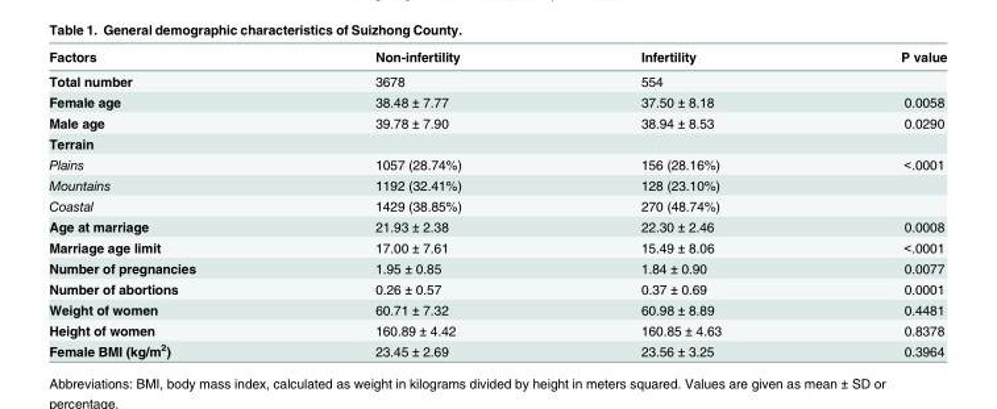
<table><thead><tr><td>Factors</td><td>Non-infertility</td><td>Infertility</td><td>P value</td></tr></thead><tbody><tr><td>Total number</td><td>3678</td><td>554</td><td></td></tr><tr><td>Female age</td><td>38.48 ± 7.77</td><td>37.50 ± 8.18</td><td>0.0058</td></tr><tr><td>Male age</td><td>39.78 ± 7.90</td><td>38.94 ± 8.53</td><td>0.0290</td></tr><tr><td colspan="4">Terrain</td></tr><tr><td>Plains</td><td>1057 (28.74%)</td><td>156 (28.16%)</td><td>&lt;.0001</td></tr><tr><td>Mountains</td><td>1192 (32.41%)</td><td>128 (23.10%)</td><td></td></tr><tr><td>Coastal</td><td>1429 (38.85%)</td><td>270 (48.74%)</td><td></td></tr><tr><td>Age at marriage</td><td>21.93 ± 2.38</td><td>22.30 ± 2.46</td><td>0.0008</td></tr><tr><td>Marriage age limit</td><td>17.00 ± 7.61</td><td>15.49 ± 8.06</td><td>&lt;.0001</td></tr><tr><td>Number of pregnancies</td><td>1.95 ± 0.85</td><td>1.84 ± 0.90</td><td>0.0077</td></tr><tr><td>Number of abortions</td><td>0.26 ± 0.57</td><td>0.37 ± 0.69</td><td>0.0001</td></tr><tr><td>Weight of women</td><td>60.71 ± 7.32</td><td>60.98 ± 8.89</td><td>0.4481</td></tr><tr><td>Height of women</td><td>160.89 ± 4.42</td><td>160.85 ± 4.63</td><td>0.8378</td></tr><tr><td>Female BMI (kg/m<sup>2</sup>)</td><td>23.45 ± 2.69</td><td>23.56 ± 3.25</td><td>0.3964</td></tr></tbody></table>